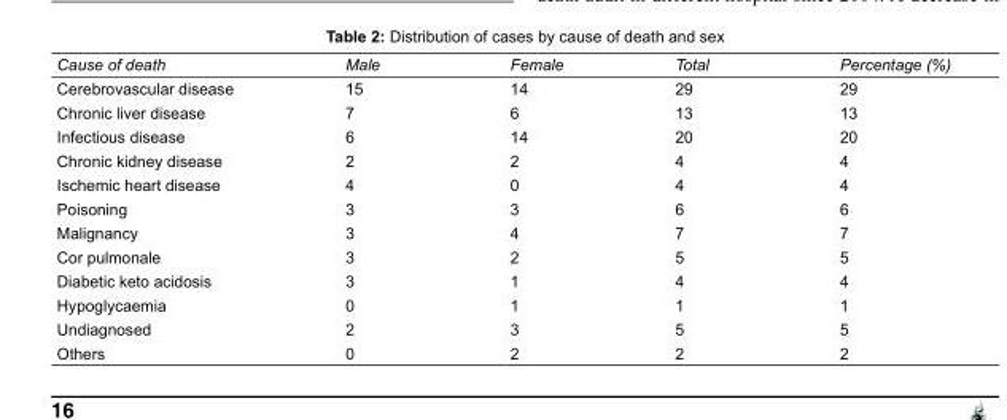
<table><tbody><tr><td>Cause of death</td><td>Male</td><td>Female</td><td>Total</td><td>Percentage (%)</td></tr><tr><td>Cerebrovascular disease</td><td>15</td><td>14</td><td>29</td><td>29</td></tr><tr><td>Chronic liver disease</td><td>7</td><td>6</td><td>13</td><td>13</td></tr><tr><td>Infectious disease</td><td>6</td><td>14</td><td>20</td><td>20</td></tr><tr><td>Chronic kidney disease</td><td>2</td><td>2</td><td>4</td><td>4</td></tr><tr><td>Ischemic heart disease</td><td>4</td><td>0</td><td>4</td><td>4</td></tr><tr><td>Poisoning</td><td>3</td><td>3</td><td>6</td><td>6</td></tr><tr><td>Malignancy</td><td>3</td><td>4</td><td>7</td><td>7</td></tr><tr><td>Cor pulmonale</td><td>3</td><td>2</td><td>5</td><td>5</td></tr><tr><td>Diabetic keto acidosis</td><td>3</td><td>1</td><td>4</td><td>4</td></tr><tr><td>Hypoglycaemia</td><td>0</td><td>1</td><td>1</td><td>1</td></tr><tr><td>Undiagnosed</td><td>2</td><td>3</td><td>5</td><td>5</td></tr><tr><td>Others</td><td>0</td><td>2</td><td>2</td><td>2</td></tr></tbody></table>